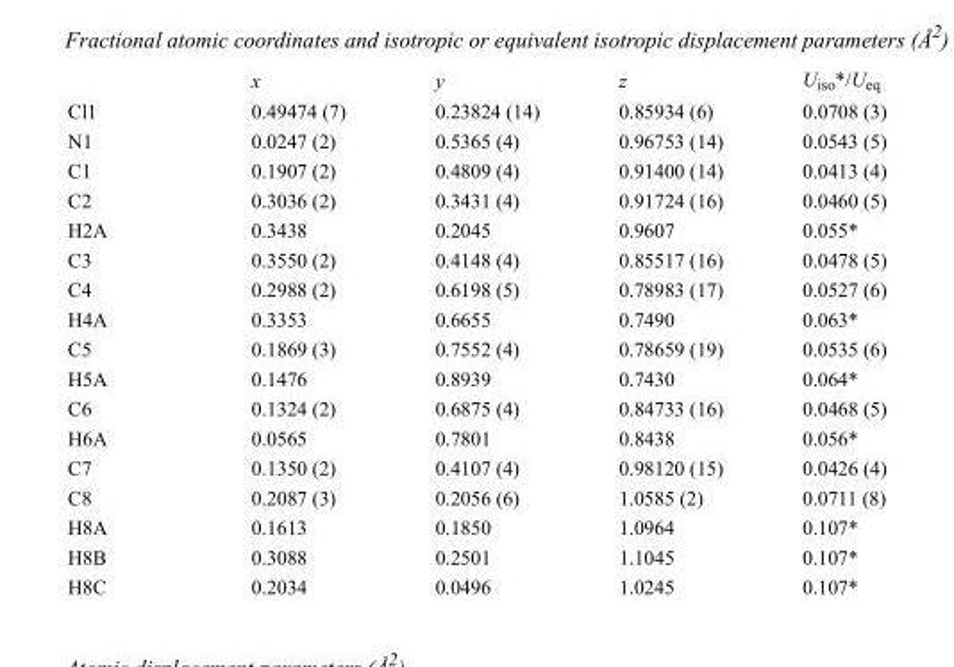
<table><thead><tr><td></td><td>x</td><td>y</td><td>z</td><td>U<sub>iso</sub>*/U<sub>eq</sub></td></tr></thead><tbody><tr><td>Cl1</td><td>0.49474 (7)</td><td>0.23824 (14)</td><td>0.85934 (6)</td><td>0.0708 (3)</td></tr><tr><td>N1</td><td>0.0247 (2)</td><td>0.5365 (4)</td><td>0.96753 (14)</td><td>0.0543 (5)</td></tr><tr><td>C1</td><td>0.1907 (2)</td><td>0.4809 (4)</td><td>0.91400 (14)</td><td>0.0413 (4)</td></tr><tr><td>C2</td><td>0.3036 (2)</td><td>0.3431 (4)</td><td>0.91724 (16)</td><td>0.0460 (5)</td></tr><tr><td>H2A</td><td>0.3438</td><td>0.2045</td><td>0.9607</td><td>0.055*</td></tr><tr><td>C3</td><td>0.3550 (2)</td><td>0.4148 (4)</td><td>0.85517 (16)</td><td>0.0478 (5)</td></tr><tr><td>C4</td><td>0.2988 (2)</td><td>0.6198 (5)</td><td>0.78983 (17)</td><td>0.0527 (6)</td></tr><tr><td>H4A</td><td>0.3353</td><td>0.6655</td><td>0.7490</td><td>0.063*</td></tr><tr><td>C5</td><td>0.1869 (3)</td><td>0.7552 (4)</td><td>0.78659 (19)</td><td>0.0535 (6)</td></tr><tr><td>H5A</td><td>0.1476</td><td>0.8939</td><td>0.7430</td><td>0.064*</td></tr><tr><td>C6</td><td>0.1324 (2)</td><td>0.6875 (4)</td><td>0.84733 (16)</td><td>0.0468 (5)</td></tr><tr><td>H6A</td><td>0.0565</td><td>0.7801</td><td>0.8438</td><td>0.056*</td></tr><tr><td>C7</td><td>0.1350 (2)</td><td>0.4107 (4)</td><td>0.98120 (15)</td><td>0.0426 (4)</td></tr><tr><td>C8</td><td>0.2087 (3)</td><td>0.2056 (6)</td><td>1.0585 (2)</td><td>0.0711 (8)</td></tr><tr><td>H8A</td><td>0.1613</td><td>0.1850</td><td>1.0964</td><td>0.107*</td></tr><tr><td>H8B</td><td>0.3088</td><td>0.2501</td><td>1.1045</td><td>0.107*</td></tr><tr><td>H8C</td><td>0.2034</td><td>0.0496</td><td>1.0245</td><td>0.107*</td></tr></tbody></table>